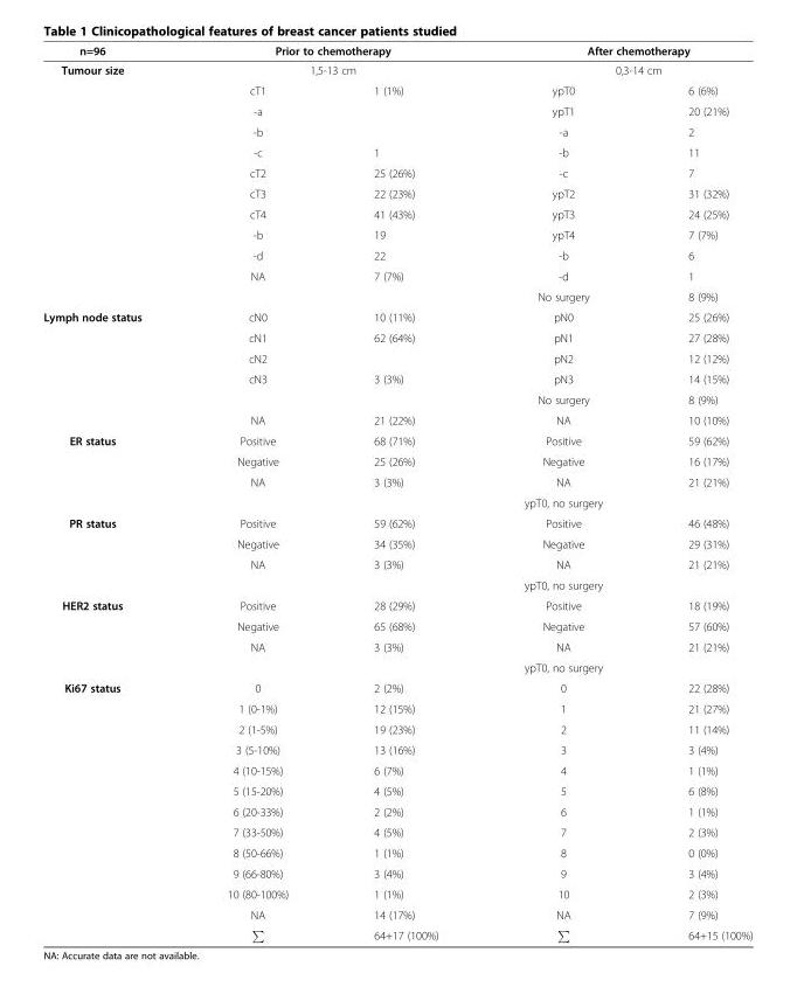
<table><thead><tr><td rowspan="3">n=96 Tumour size</td><td rowspan="2" colspan="2">Prior to chemotherapy 1,5-13 cm</td><td rowspan="2" colspan="2">After chemotherapy 0,3-14 cm</td></tr><tr></tr><tr><td>cT1</td><td>1 (1%)</td><td>ypT0</td><td>6 (6%)</td></tr></thead><tbody><tr><td></td><td>-a</td><td></td><td>ypT1</td><td>20 (21%)</td></tr><tr><td></td><td>-b</td><td></td><td>-a</td><td>2</td></tr><tr><td></td><td>-c</td><td>1</td><td>-b</td><td>11</td></tr><tr><td></td><td>cT2</td><td>25 (26%)</td><td>-c</td><td>7</td></tr><tr><td></td><td>cT3</td><td>22 (23%)</td><td>ypT2</td><td>31 (32%)</td></tr><tr><td></td><td>cT4</td><td>41 (43%)</td><td>ypT3</td><td>24 (25%)</td></tr><tr><td></td><td>-b</td><td>19</td><td>ypT4</td><td>7 (7%)</td></tr><tr><td></td><td>-d</td><td>22</td><td>-b</td><td>6</td></tr><tr><td></td><td>NA</td><td>7 (7%)</td><td>-d</td><td>1</td></tr><tr><td></td><td></td><td></td><td>No surgery</td><td>8 (9%)</td></tr><tr><td rowspan="6">Lymph node status</td><td>cN0</td><td>10 (11%)</td><td>pN0</td><td>25 (26%)</td></tr><tr><td>cN1</td><td>62 (64%)</td><td>pN1</td><td>27 (28%)</td></tr><tr><td>cN2</td><td></td><td>pN2</td><td>12 (12%)</td></tr><tr><td>cN3</td><td>3 (3%)</td><td>pN3</td><td>14 (15%)</td></tr><tr><td></td><td></td><td>No surgery</td><td>8 (9%)</td></tr><tr><td>NA</td><td>21 (22%)</td><td>NA</td><td>10 (10%)</td></tr><tr><td rowspan="4">ER status</td><td>Positive</td><td>68 (71%)</td><td>Positive</td><td>59 (62%)</td></tr><tr><td>Negative</td><td>25 (26%)</td><td>Negative</td><td>16 (17%)</td></tr><tr><td>NA</td><td>3 (3%)</td><td>NA</td><td>21 (21%)</td></tr><tr><td></td><td></td><td>ypT0, no surgery</td><td></td></tr><tr><td rowspan="4">PR status</td><td>Positive</td><td>59 (62%)</td><td>Positive</td><td>46 (48%)</td></tr><tr><td>Negative</td><td>34 (35%)</td><td>Negative</td><td>29 (31%)</td></tr><tr><td>NA</td><td>3 (3%)</td><td>NA</td><td>21 (21%)</td></tr><tr><td></td><td></td><td>ypT0, no surgery</td><td></td></tr><tr><td rowspan="4">HER2 status</td><td>Positive</td><td>28 (29%)</td><td>Positive</td><td>18 (19%)</td></tr><tr><td>Negative</td><td>65 (68%)</td><td>Negative</td><td>57 (60%)</td></tr><tr><td>NA</td><td>3 (3%)</td><td>NA</td><td>21 (21%)</td></tr><tr><td></td><td></td><td>ypT0, no surgery</td><td></td></tr><tr><td rowspan="13">Ki67 status</td><td>0</td><td>2 (2%)</td><td>0</td><td>22 (28%)</td></tr><tr><td>1 (0-1%)</td><td>12 (15%)</td><td>1</td><td>21 (27%)</td></tr><tr><td>2 (1-5%)</td><td>19 (23%)</td><td>2</td><td>11 (14%)</td></tr><tr><td>3 (5-10%)</td><td>13 (16%)</td><td>3</td><td>3 (4%)</td></tr><tr><td>4 (10-15%)</td><td>6 (7%)</td><td>4</td><td>1 (1%)</td></tr><tr><td>5 (15-20%)</td><td>4 (5%)</td><td>5</td><td>6 (8%)</td></tr><tr><td>6 (20-33%)</td><td>2 (2%)</td><td>6</td><td>1 (1%)</td></tr><tr><td>7 (33-50%)</td><td>4 (5%)</td><td>7</td><td>2 (3%)</td></tr><tr><td>8 (50-66%)</td><td>1 (1%)</td><td>8</td><td>0 (0%)</td></tr><tr><td>9 (66-80%)</td><td>3 (4%)</td><td>9</td><td>3 (4%)</td></tr><tr><td>10 (80-100%)</td><td>1 (1%)</td><td>10</td><td>2 (3%)</td></tr><tr><td>NA</td><td>14 (17%)</td><td>NA</td><td>7 (9%)</td></tr><tr><td></td><td>64+17 (100%)</td><td></td><td>64+15 (100%)</td></tr></tbody></table>